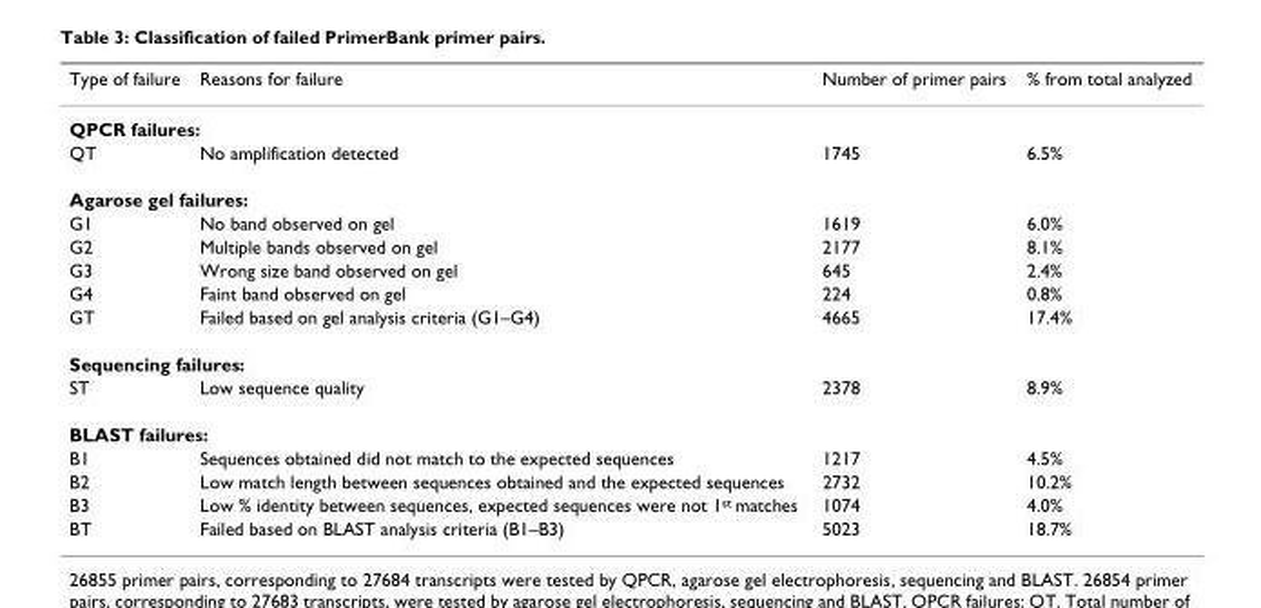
<table><thead><tr><td>Type of failure</td><td>Reasons for failure</td><td>Number of primer pairs</td><td>% from total analyzed</td></tr></thead><tbody><tr><td colspan="4">QPCR failures:</td></tr><tr><td>QT</td><td>No amplification detected</td><td>1745</td><td>6.5%</td></tr><tr><td colspan="4">Agarose gel failures:</td></tr><tr><td>G1</td><td>No band observed on gel</td><td>1619</td><td>6.0%</td></tr><tr><td>G2</td><td>Multiple bands observed on gel</td><td>2177</td><td>8.1%</td></tr><tr><td>G3</td><td>Wrong size band observed on gel</td><td>645</td><td>2.4%</td></tr><tr><td>G4</td><td>Faint band observed on gel</td><td>224</td><td>0.8%</td></tr><tr><td>GT</td><td>Failed based on gel analysis criteria (G1–G4)</td><td>4665</td><td>17.4%</td></tr><tr><td colspan="4">Sequencing failures:</td></tr><tr><td>ST</td><td>Low sequence quality</td><td>2378</td><td>8.9%</td></tr><tr><td colspan="4">BLAST failures:</td></tr><tr><td>B1</td><td>Sequences obtained did not match to the expected sequences</td><td>1217</td><td>4.5%</td></tr><tr><td>B2</td><td>Low match length between sequences obtained and the expected sequences</td><td>2732</td><td>10.2%</td></tr><tr><td>B3</td><td>Low % identity between sequences, expected sequences were not 1<sup>st</sup> matches</td><td>1074</td><td>4.0%</td></tr><tr><td>BT</td><td>Failed based on BLAST analysis criteria (B1–B3)</td><td>5023</td><td>18.7%</td></tr></tbody></table>